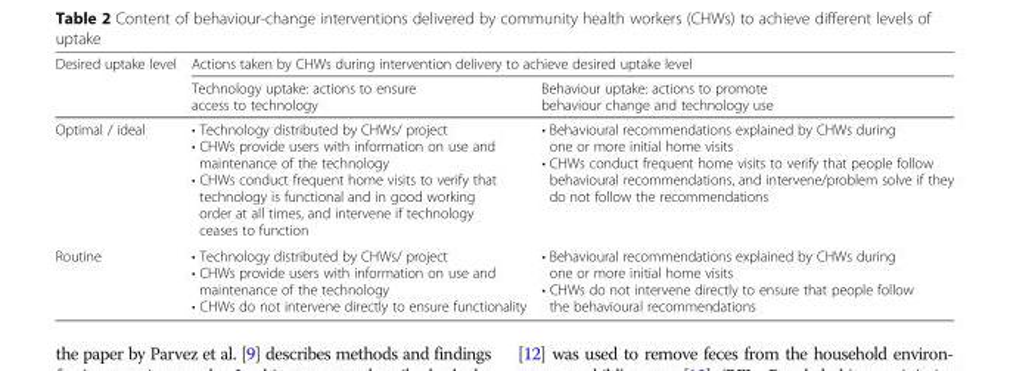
<table><thead><tr><td rowspan="2">Desired uptake level</td><td colspan="2">Actions taken by CHWs during intervention delivery to achieve desired uptake level</td></tr><tr><td>Technology uptake: actions to ensure access to technology</td><td>Behaviour uptake: actions to promote behaviour change and technology use</td></tr></thead><tbody><tr><td>Optimal / ideal</td><td>• Technology distributed by CHWs/ project • CHWs provide users with information on use and maintenance of the technology • CHWs conduct frequent home visits to verify that technology is functional and in good working order at all times, and intervene if technology ceases to function</td><td>• Behavioural recommendations explained by CHWs during one or more initial home visits • CHWs conduct frequent home visits to verify that people follow behavioural recommendations, and intervene/problem solve if they do not follow the recommendations</td></tr><tr><td>Routine</td><td>• Technology distributed by CHWs/ project • CHWs provide users with information on use and maintenance of the technology • CHWs do not intervene directly to ensure functionality</td><td>• Behavioural recommendations explained by CHWs during one or more initial home visits • CHWs do not intervene directly to ensure that people follow the behavioural recommendations</td></tr></tbody></table>